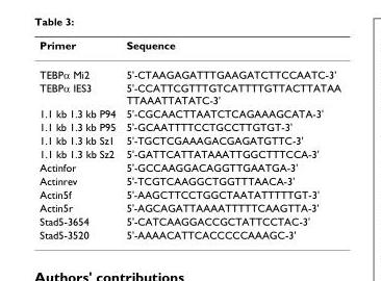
<table><thead><tr><td>Primer</td><td>Sequence</td></tr></thead><tbody><tr><td>TEBPα Mi2</td><td>5&#x27;-CTAAGAGATTTGAAGATCTTCCAATC-3&#x27;</td></tr><tr><td>TEBPα IES3</td><td>5&#x27;-CCATTCGTTTGTCATTTTGTTACTTATAA TTAAATTATATC-3&#x27;</td></tr><tr><td>1.1 kb 1.3 kb P94</td><td>5&#x27;-CGCAACTTAATCTCAGAAAGCATA-3&#x27;</td></tr><tr><td>1.1 kb 1.3 kb P95</td><td>5&#x27;-GCAATTTTCCTGCCTTGTGT-3&#x27;</td></tr><tr><td>1.1 kb 1.3 kb Sz1</td><td>5&#x27;-TGCTCGAAAGACGAGATGTTC-3&#x27;</td></tr><tr><td>1.1 kb 1.3 kb Sz2</td><td>5&#x27;-GATTCATTATAAATTGGCTTTCCA-3&#x27;</td></tr><tr><td>Actinfor</td><td>5&#x27;-GCCAAGGACAGGTTGAATGA-3&#x27;</td></tr><tr><td>Actinrev</td><td>5&#x27;-TCGTCAAGGCTGGTTTAACA-3&#x27;</td></tr><tr><td>Actin5f</td><td>5&#x27;-AAGCTTCCTGGCTAATATTTTTGT-3&#x27;</td></tr><tr><td>Actin5r</td><td>5&#x27;-AGCAGATTAAAATTTTTCAAGTTA-3&#x27;</td></tr><tr><td>Stad5-3654</td><td>5&#x27;-CATCAAGGACCGCTATTCCTAC-3&#x27;</td></tr><tr><td>Stad5-3520</td><td>5&#x27;-AAAACATTCACCCCCAAAGC-3&#x27;</td></tr></tbody></table>